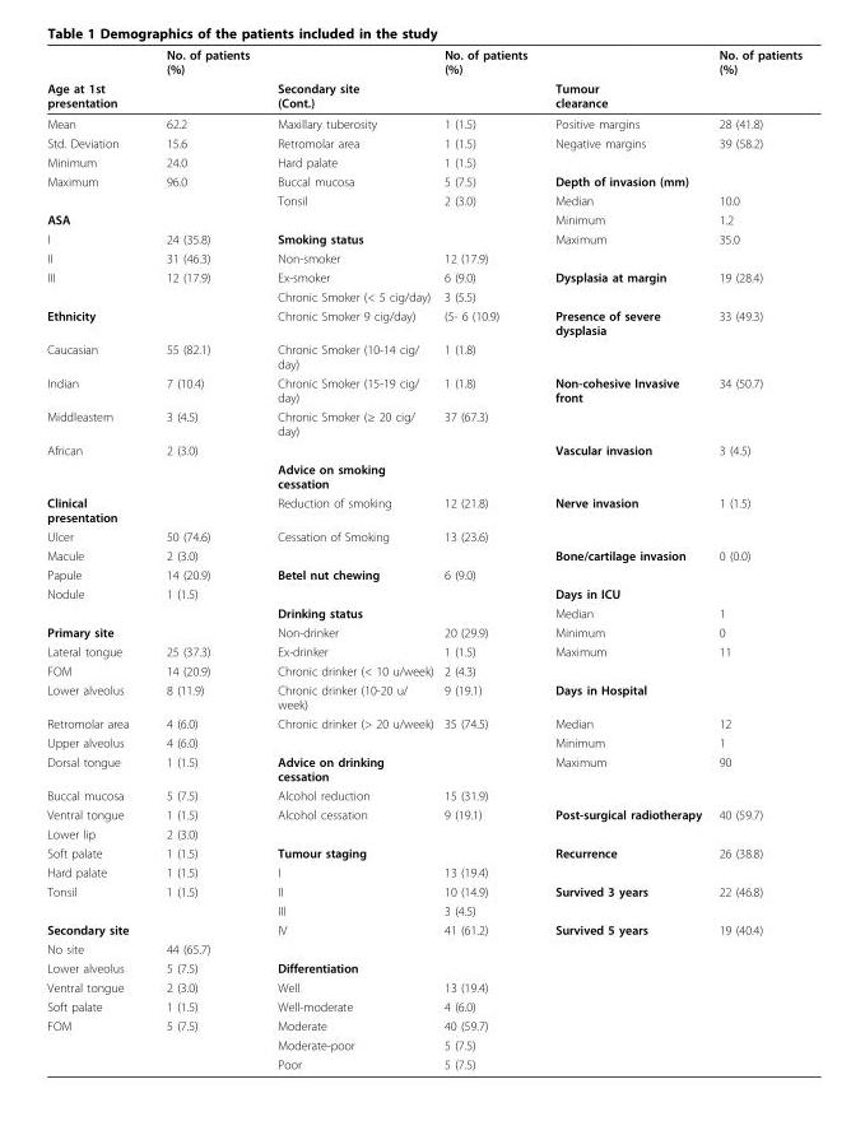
<table><thead><tr><td rowspan="2">Age at 1st presentation</td><td rowspan="2">No. of patients (%)</td><td rowspan="2">Secondary site (Cont.)</td><td rowspan="2">No. of patients (%)</td><td rowspan="2">Tumour clearance</td><td rowspan="2">No. of patients (%)</td></tr><tr></tr></thead><tbody><tr><td>Mean</td><td>62.2</td><td>Maxillary tuberosity</td><td>1 (1.5)</td><td>Positive margins</td><td>28 (41.8)</td></tr><tr><td>Std. Deviation</td><td>15.6</td><td>Retromolar area</td><td>1 (1.5)</td><td>Negative margins</td><td>39 (58.2)</td></tr><tr><td>Minimum</td><td>24.0</td><td>Hard palate</td><td>1 (1.5)</td><td></td><td></td></tr><tr><td rowspan="2">Maximum</td><td>96.0</td><td>Buccal mucosa</td><td>5 (7.5)</td><td>Depth of invasion (mm)</td><td></td></tr><tr><td></td><td>Tonsil</td><td>2 (3.0)</td><td>Median</td><td>10.0</td></tr><tr><td>ASA</td><td></td><td></td><td></td><td>Minimum</td><td>1.2</td></tr><tr><td>I</td><td>24 (35.8)</td><td>Smoking status</td><td></td><td>Maximum</td><td>35.0</td></tr><tr><td>II</td><td>31 (46.3)</td><td>Non-smoker</td><td>12 (17.9)</td><td></td><td></td></tr><tr><td rowspan="2">III</td><td>12 (17.9)</td><td>Ex-smoker</td><td>6 (9.0)</td><td>Dysplasia at margin</td><td>19 (28.4)</td></tr><tr><td></td><td>Chronic Smoker (&lt; 5 cig/day)</td><td>3 (5.5)</td><td></td><td></td></tr><tr><td>Ethnicity</td><td></td><td>Chronic Smoker 9 cig/day)</td><td>(5- 6 (10.9)</td><td>Presence of severe dysplasia</td><td>33 (49.3)</td></tr><tr><td>Caucasian</td><td>55 (82.1)</td><td>Chronic Smoker (10-14 cig/ day)</td><td>1 (1.8)</td><td></td><td></td></tr><tr><td>Indian</td><td>7 (10.4)</td><td>Chronic Smoker (15-19 cig/ day)</td><td>1 (1.8)</td><td>Non-cohesive Invasive front</td><td>34 (50.7)</td></tr><tr><td>Middleastern</td><td>3 (4.5)</td><td>Chronic Smoker (≥ 20 cig/ day)</td><td>37 (67.3)</td><td></td><td></td></tr><tr><td rowspan="2">African</td><td>2 (3.0)</td><td></td><td></td><td>Vascular invasion</td><td>3 (4.5)</td></tr><tr><td></td><td>Advice on smoking cessation</td><td></td><td></td><td></td></tr><tr><td>Clinical presentation</td><td></td><td>Reduction of smoking</td><td>12 (21.8)</td><td>Nerve invasion</td><td>1 (1.5)</td></tr><tr><td>Ulcer</td><td>50 (74.6)</td><td>Cessation of Smoking</td><td>13 (23.6)</td><td></td><td></td></tr><tr><td>Macule</td><td>2 (3.0)</td><td></td><td></td><td>Bone/cartilage invasion</td><td>0 (0.0)</td></tr><tr><td>Papule</td><td>14 (20.9)</td><td>Betel nut chewing</td><td>6 (9.0)</td><td></td><td></td></tr><tr><td rowspan="2">Nodule</td><td>1 (1.5)</td><td></td><td></td><td>Days in ICU</td><td></td></tr><tr><td></td><td>Drinking status</td><td></td><td>Median</td><td>1</td></tr><tr><td>Primary site</td><td></td><td>Non-drinker</td><td>20 (29.9)</td><td>Minimum</td><td>0</td></tr><tr><td>Lateral tongue</td><td>25 (37.3)</td><td>Ex-drinker</td><td>1 (1.5)</td><td>Maximum</td><td>11</td></tr><tr><td>FOM</td><td>14 (20.9)</td><td>Chronic drinker (&lt; 10 u/week)</td><td>2 (4.3)</td><td></td><td></td></tr><tr><td>Lower alveolus</td><td>8 (11.9)</td><td>Chronic drinker (10-20 u/ week)</td><td>9 (19.1)</td><td>Days in Hospital</td><td></td></tr><tr><td>Retromolar area</td><td>4 (6.0)</td><td>Chronic drinker (&gt; 20 u/week)</td><td>35 (74.5)</td><td>Median</td><td>12</td></tr><tr><td>Upper alveolus</td><td>4 (6.0)</td><td></td><td></td><td>Minimum</td><td>1</td></tr><tr><td>Dorsal tongue</td><td>1 (1.5)</td><td>Advice on drinking cessation</td><td></td><td>Maximum</td><td>90</td></tr><tr><td>Buccal mucosa</td><td>5 (7.5)</td><td>Alcohol reduction</td><td>15 (31.9)</td><td></td><td></td></tr><tr><td>Ventral tongue</td><td>1 (1.5)</td><td>Alcohol cessation</td><td>9 (19.1)</td><td>Post-surgical radiotherapy</td><td>40 (59.7)</td></tr><tr><td>Lower lip</td><td>2 (3.0)</td><td></td><td></td><td></td><td></td></tr><tr><td>Soft palate</td><td>1 (1.5)</td><td>Tumour staging</td><td></td><td>Recurrence</td><td>26 (38.8)</td></tr><tr><td>Hard palate</td><td>1 (1.5)</td><td>I</td><td>13 (19.4)</td><td></td><td></td></tr><tr><td rowspan="2">Tonsil</td><td>1 (1.5)</td><td>II</td><td>10 (14.9)</td><td>Survived 3 years</td><td>22 (46.8)</td></tr><tr><td></td><td>III</td><td>3 (4.5)</td><td></td><td></td></tr><tr><td>Secondary site</td><td></td><td>IV</td><td>41 (61.2)</td><td>Survived 5 years</td><td>19 (40.4)</td></tr><tr><td>No site</td><td>44 (65.7)</td><td></td><td></td><td></td><td></td></tr><tr><td>Lower alveolus</td><td>5 (7.5)</td><td>Differentiation</td><td></td><td></td><td></td></tr><tr><td>Ventral tongue</td><td>2 (3.0)</td><td>Well</td><td>13 (19.4)</td><td></td><td></td></tr><tr><td>Soft palate</td><td>1 (1.5)</td><td>Well-moderate</td><td>4 (6.0)</td><td></td><td></td></tr><tr><td rowspan="3">FOM</td><td>5 (7.5)</td><td>Moderate</td><td>40 (59.7)</td><td></td><td></td></tr><tr><td></td><td>Moderate-poor</td><td>5 (7.5)</td><td></td><td></td></tr><tr><td></td><td>Poor</td><td>5 (7.5)</td><td></td><td></td></tr></tbody></table>